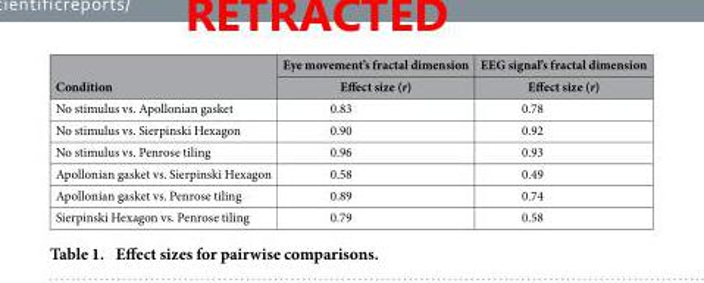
<table><thead><tr><td rowspan="2">Condition</td><td rowspan="2">Eye movement’s fractal dimension Effect size (r)</td><td rowspan="2">EEG signal’s fractal dimension Effect size (r)</td></tr><tr></tr></thead><tbody><tr><td>No stimulus vs. Apollonian gasket</td><td>0.83</td><td>0.78</td></tr><tr><td>No stimulus vs. Sierpinski Hexagon</td><td>0.90</td><td>0.92</td></tr><tr><td>No stimulus vs. Penrose tiling</td><td>0.96</td><td>0.93</td></tr><tr><td>Apollonian gasket vs. Sierpinski Hexagon</td><td>0.58</td><td>0.49</td></tr><tr><td>Apollonian gasket vs. Penrose tiling</td><td>0.89</td><td>0.74</td></tr><tr><td>Sierpinski Hexagon vs. Penrose tiling</td><td>0.79</td><td>0.58</td></tr></tbody></table>